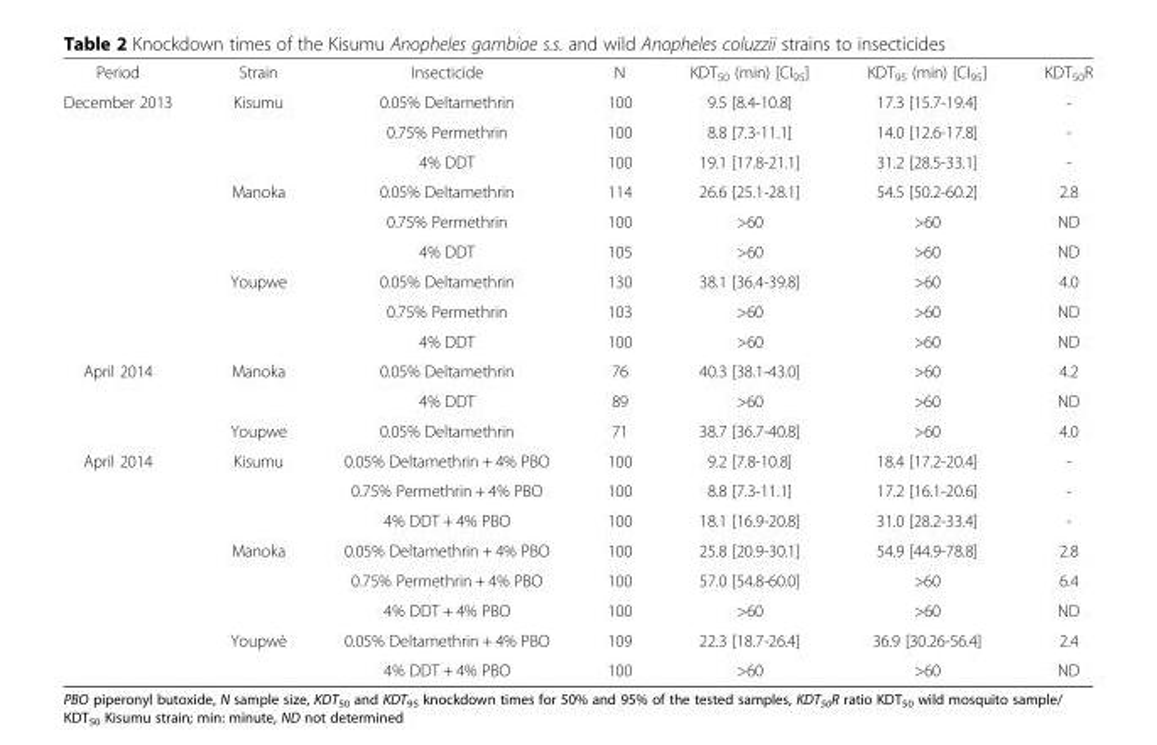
<table><tbody><tr><td>Period</td><td>Strain</td><td>Insecticide</td><td>N</td><td>KDT<sub>50</sub> (min) [CI<sub>95</sub>]</td><td>KDT<sub>95</sub> (min) [CI<sub>95</sub>]</td><td>KDT<sub>50</sub>R</td></tr><tr><td rowspan="9">December 2013</td><td rowspan="3">Kisumu</td><td>0.05% Deltamethrin</td><td>100</td><td>9.5 [8.4-10.8]</td><td>17.3 [15.7-19.4]</td><td>-</td></tr><tr><td>0.75% Permethrin</td><td>100</td><td>8.8 [7.3-11.1]</td><td>14.0 [12.6-17.8]</td><td>-</td></tr><tr><td>4% DDT</td><td>100</td><td>19.1 [17.8-21.1]</td><td>31.2 [28.5-33.1]</td><td>-</td></tr><tr><td rowspan="3">Manoka</td><td>0.05% Deltamethrin</td><td>114</td><td>26.6 [25.1-28.1]</td><td>54.5 [50.2-60.2]</td><td>2.8</td></tr><tr><td>0.75% Permethrin</td><td>100</td><td>&gt;60</td><td>&gt;60</td><td>ND</td></tr><tr><td>4% DDT</td><td>105</td><td>&gt;60</td><td>&gt;60</td><td>ND</td></tr><tr><td rowspan="3">Youpwe</td><td>0.05% Deltamethrin</td><td>130</td><td>38.1 [36.4-39.8]</td><td>&gt;60</td><td>4.0</td></tr><tr><td>0.75% Permethrin</td><td>103</td><td>&gt;60</td><td>&gt;60</td><td>ND</td></tr><tr><td>4% DDT</td><td>100</td><td>&gt;60</td><td>&gt;60</td><td>ND</td></tr><tr><td rowspan="3">April 2014</td><td rowspan="2">Manoka</td><td>0.05% Deltamethrin</td><td>76</td><td>40.3 [38.1-43.0]</td><td>&gt;60</td><td>4.2</td></tr><tr><td>4% DDT</td><td>89</td><td>&gt;60</td><td>&gt;60</td><td>ND</td></tr><tr><td>Youpwe</td><td>0.05% Deltamethrin</td><td>71</td><td>38.7 [36.7-40.8]</td><td>&gt;60</td><td>4.0</td></tr><tr><td rowspan="8">April 2014</td><td rowspan="3">Kisumu</td><td>0.05% Deltamethrin + 4% PBO</td><td>100</td><td>9.2 [7.8-10.8]</td><td>18.4 [17.2-20.4]</td><td>-</td></tr><tr><td>0.75% Permethrin + 4% PBO</td><td>100</td><td>8.8 [7.3-11.1]</td><td>17.2 [16.1-20.6]</td><td>-</td></tr><tr><td>4% DDT + 4% PBO</td><td>100</td><td>18.1 [16.9-20.8]</td><td>31.0 [28.2-33.4]</td><td>-</td></tr><tr><td rowspan="3">Manoka</td><td>0.05% Deltamethrin + 4% PBO</td><td>100</td><td>25.8 [20.9-30.1]</td><td>54.9 [44.9-78.8]</td><td>2.8</td></tr><tr><td>0.75% Permethrin + 4% PBO</td><td>100</td><td>57.0 [54.8-60.0]</td><td>&gt;60</td><td>6.4</td></tr><tr><td>4% DDT + 4% PBO</td><td>100</td><td>&gt;60</td><td>&gt;60</td><td>ND</td></tr><tr><td rowspan="2">Youpwè</td><td>0.05% Deltamethrin + 4% PBO</td><td>109</td><td>22.3 [18.7-26.4]</td><td>36.9 [30.26-56.4]</td><td>2.4</td></tr><tr><td>4% DDT + 4% PBO</td><td>100</td><td>&gt;60</td><td>&gt;60</td><td>ND</td></tr></tbody></table>